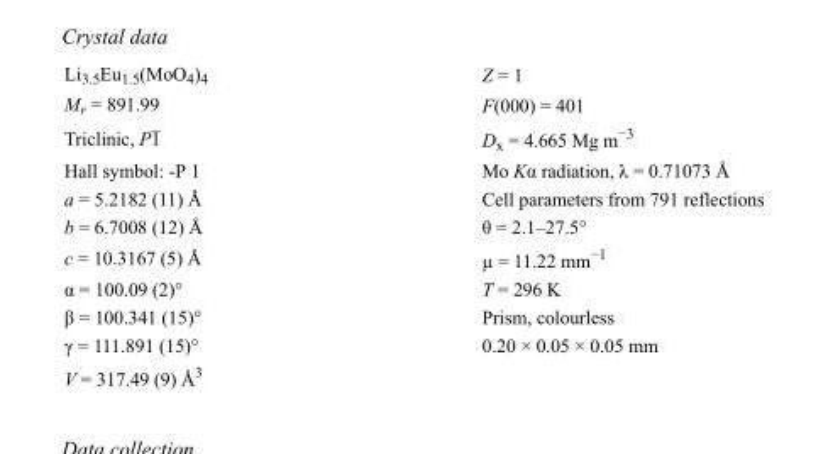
<table><tbody><tr><td>Li<sub>3.5</sub>Eu<sub>1.5</sub>(MoO<sub>4</sub>)<sub>4</sub></td><td>Z = 1</td></tr><tr><td>M<sub>r</sub> = 891.99</td><td>F(000) = 401</td></tr><tr><td>Triclinic, P1</td><td>D<sub>x</sub> = 4.665 Mg m<sup>−3</sup></td></tr><tr><td>Hall symbol: -P 1</td><td>Mo Kα radiation, λ = 0.71073 Å</td></tr><tr><td>a = 5.2182 (11) Å</td><td>Cell parameters from 791 reflections</td></tr><tr><td>b = 6.7008 (12) Å</td><td>θ = 2.1–27.5°</td></tr><tr><td>c = 10.3167 (5) Å</td><td>µ = 11.22 mm<sup>−1</sup></td></tr><tr><td>α = 100.09 (2)°</td><td>T = 296 K</td></tr><tr><td>β = 100.341 (15)°</td><td>Prism, colourless</td></tr><tr><td>γ = 111.891 (15)°</td><td>0.20 × 0.05 × 0.05 mm</td></tr><tr><td>V = 317.49 (9) Å<sup>3</sup></td><td></td></tr></tbody></table>